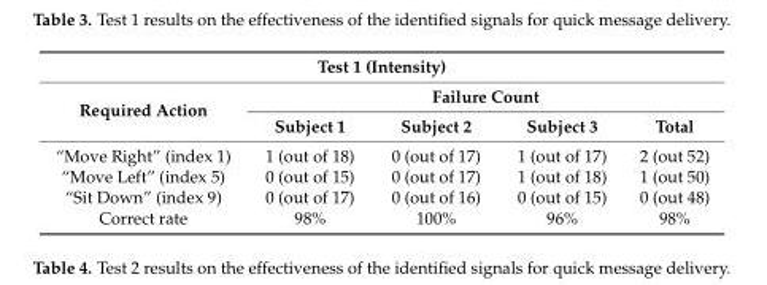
<table><thead><tr><td colspan="5">Test 1 (Intensity)</td></tr><tr><td rowspan="2">Required Action</td><td colspan="4">Failure Count</td></tr><tr><td>Subject 1</td><td>Subject 2</td><td>Subject 3</td><td>Total</td></tr></thead><tbody><tr><td>“Move Right” (index 1)</td><td>1 (out of 18)</td><td>0 (out of 17)</td><td>1 (out of 17)</td><td>2 (out 52)</td></tr><tr><td>“Move Left” (index 5)</td><td>0 (out of 15)</td><td>0 (out of 17)</td><td>1 (out of 18)</td><td>1 (out 50)</td></tr><tr><td>“Sit Down” (index 9)</td><td>0 (out of 17)</td><td>0 (out of 16)</td><td>0 (out of 15)</td><td>0 (out 48)</td></tr><tr><td>Correct rate</td><td>98%</td><td>100%</td><td>96%</td><td>98%</td></tr></tbody></table>